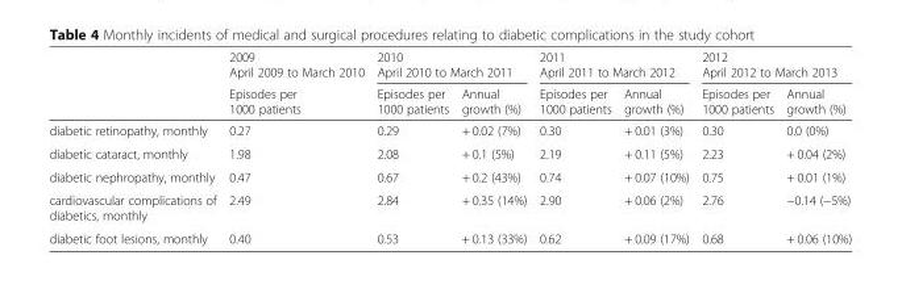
<table><thead><tr><td rowspan="2"></td><td rowspan="2">2009 April 2009 to March 2010 Episodes per 1000 patients</td><td colspan="2">2010 April 2010 to March 2011</td><td colspan="2">2011 April 2011 to March 2012</td><td colspan="2">2012 April 2012 to March 2013</td></tr><tr><td>Episodes per 1000 patients</td><td>Annual growth (%)</td><td>Episodes per 1000 patients</td><td>Annual growth (%)</td><td>Episodes per 1000 patients</td><td>Annual growth (%)</td></tr></thead><tbody><tr><td>diabetic retinopathy, monthly</td><td>0.27</td><td>0.29</td><td>+ 0.02 (7%)</td><td>0.30</td><td>+ 0.01 (3%)</td><td>0.30</td><td>0.0 (0%)</td></tr><tr><td>diabetic cataract, monthly</td><td>1.98</td><td>2.08</td><td>+ 0.1 (5%)</td><td>2.19</td><td>+ 0.11 (5%)</td><td>2.23</td><td>+ 0.04 (2%)</td></tr><tr><td>diabetic nephropathy, monthly</td><td>0.47</td><td>0.67</td><td>+ 0.2 (43%)</td><td>0.74</td><td>+ 0.07 (10%)</td><td>0.75</td><td>+ 0.01 (1%)</td></tr><tr><td>cardiovascular complications of diabetics, monthly</td><td>2.49</td><td>2.84</td><td>+ 0.35 (14%)</td><td>2.90</td><td>+ 0.06 (2%)</td><td>2.76</td><td>−0.14 (−5%)</td></tr><tr><td>diabetic foot lesions, monthly</td><td>0.40</td><td>0.53</td><td>+ 0.13 (33%)</td><td>0.62</td><td>+ 0.09 (17%)</td><td>0.68</td><td>+ 0.06 (10%)</td></tr></tbody></table>